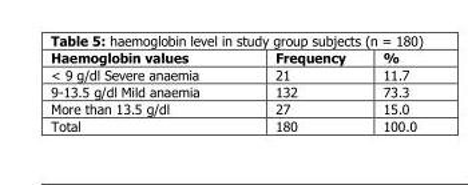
<table><thead><tr><td>Haemoglobin values</td><td>Frequency</td><td>%</td></tr></thead><tbody><tr><td>&lt; 9 g/dl Severe anaemia</td><td>21</td><td>11.7</td></tr><tr><td>9-13.5 g/dl Mild anaemia</td><td>132</td><td>73.3</td></tr><tr><td>More than 13.5 g/dl</td><td>27</td><td>15.0</td></tr><tr><td>Total</td><td>180</td><td>100.0</td></tr></tbody></table>